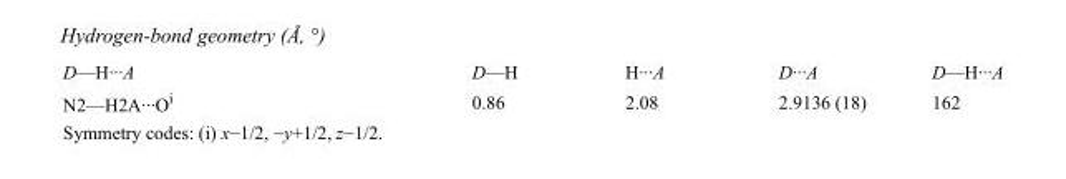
<table><tbody><tr><td>D—H···A</td><td>D—H</td><td>H···A</td><td>D···A</td><td>D—H···A</td></tr><tr><td>N2—H2A···O<sup>i</sup></td><td>0.86</td><td>2.08</td><td>2.9136 (18)</td><td>162</td></tr></tbody></table>